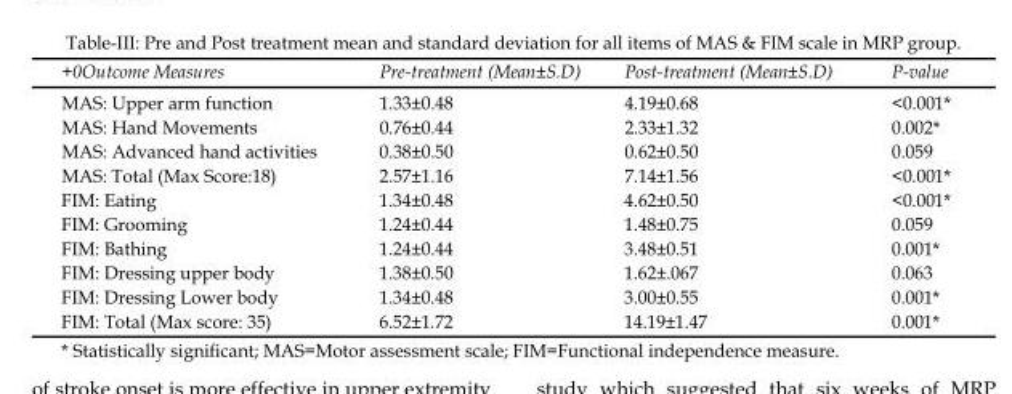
<table><thead><tr><td>+0Outcome Measures</td><td>Pre-treatment (Mean±S.D)</td><td>Post-treatment (Mean±S.D)</td><td>P-value</td></tr></thead><tbody><tr><td>MAS: Upper arm function</td><td>1.33±0.48</td><td>4.19±0.68</td><td>&lt;0.001*</td></tr><tr><td>MAS: Hand Movements</td><td>0.76±0.44</td><td>2.33±1.32</td><td>0.002*</td></tr><tr><td>MAS: Advanced hand activities</td><td>0.38±0.50</td><td>0.62±0.50</td><td>0.059</td></tr><tr><td>MAS: Total (Max Score:18)</td><td>2.57±1.16</td><td>7.14±1.56</td><td>&lt;0.001*</td></tr><tr><td>FIM: Eating</td><td>1.34±0.48</td><td>4.62±0.50</td><td>&lt;0.001*</td></tr><tr><td>FIM: Grooming</td><td>1.24±0.44</td><td>1.48±0.75</td><td>0.059</td></tr><tr><td>FIM: Bathing</td><td>1.24±0.44</td><td>3.48±0.51</td><td>0.001*</td></tr><tr><td>FIM: Dressing upper body</td><td>1.38±0.50</td><td>1.62±.067</td><td>0.063</td></tr><tr><td>FIM: Dressing Lower body</td><td>1.34±0.48</td><td>3.00±0.55</td><td>0.001*</td></tr><tr><td>FIM: Total (Max score: 35)</td><td>6.52±1.72</td><td>14.19±1.47</td><td>0.001*</td></tr></tbody></table>